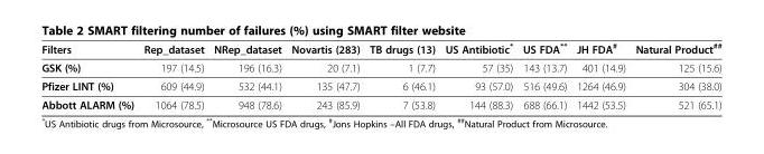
<table><thead><tr><td>Filters</td><td>Rep_dataset</td><td>NRep_dataset</td><td>Novartis (283)</td><td>TB drugs (13)</td><td>US Antibiotic*</td><td>US FDA**</td><td>JH FDA<sup>#</sup></td><td>Natural Product<sup>##</sup></td></tr></thead><tbody><tr><td>GSK (%)</td><td>197 (14.5)</td><td>196 (16.3)</td><td>20 (7.1)</td><td>1 (7.7)</td><td>57 (35)</td><td>143 (13.7)</td><td>401 (14.9)</td><td>125 (15.6)</td></tr><tr><td>Pfizer LINT (%)</td><td>609 (44.9)</td><td>532 (44.1)</td><td>135 (47.7)</td><td>6 (46.1)</td><td>93 (57.0)</td><td>516 (49.6)</td><td>1264 (46.9)</td><td>304 (38.0)</td></tr><tr><td>Abbott ALARM (%)</td><td>1064 (78.5)</td><td>948 (78.6)</td><td>243 (85.9)</td><td>7 (53.8)</td><td>144 (88.3)</td><td>688 (66.1)</td><td>1442 (53.5)</td><td>521 (65.1)</td></tr></tbody></table>